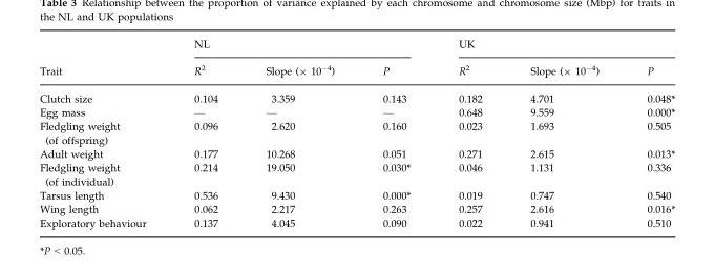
<table><thead><tr><td rowspan="2">Trait</td><td colspan="3">NL</td><td colspan="3">UK</td></tr><tr><td>R<sup>2</sup></td><td>Slope (× 10<sup>−4</sup>)</td><td>P</td><td>R<sup>2</sup></td><td>Slope (× 10<sup>−4</sup>)</td><td>P</td></tr></thead><tbody><tr><td>Clutch size</td><td>0.104</td><td>3.359</td><td>0.143</td><td>0.182</td><td>4.701</td><td>0.048*</td></tr><tr><td>Egg mass</td><td>—</td><td>—</td><td>—</td><td>0.648</td><td>9.559</td><td>0.000*</td></tr><tr><td>Fledgling weight (of offspring)</td><td>0.096</td><td>2.620</td><td>0.160</td><td>0.023</td><td>1.693</td><td>0.505</td></tr><tr><td>Adult weight</td><td>0.177</td><td>10.268</td><td>0.051</td><td>0.271</td><td>2.615</td><td>0.013*</td></tr><tr><td>Fledgling weight (of individual)</td><td>0.214</td><td>19.050</td><td>0.030*</td><td>0.046</td><td>1.131</td><td>0.336</td></tr><tr><td>Tarsus length</td><td>0.536</td><td>9.430</td><td>0.000*</td><td>0.019</td><td>0.747</td><td>0.540</td></tr><tr><td>Wing length</td><td>0.062</td><td>2.217</td><td>0.263</td><td>0.257</td><td>2.616</td><td>0.016*</td></tr><tr><td>Exploratory behaviour</td><td>0.137</td><td>4.045</td><td>0.090</td><td>0.022</td><td>0.941</td><td>0.510</td></tr></tbody></table>